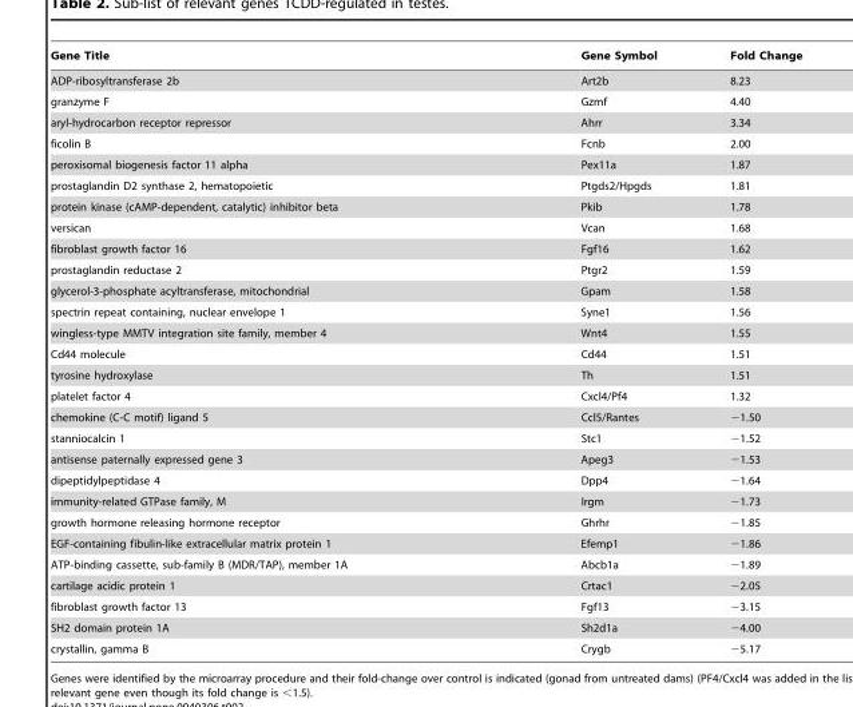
<table><thead><tr><td>Gene Title</td><td>Gene Symbol</td><td>Fold Change</td></tr></thead><tbody><tr><td>ADP-ribosyltransferase 2b</td><td>Art2b</td><td>8.23</td></tr><tr><td>granzyme F</td><td>Gzmf</td><td>4.40</td></tr><tr><td>aryl-hydrocarbon receptor repressor</td><td>Ahrr</td><td>3.34</td></tr><tr><td>ficolin B</td><td>Fcnb</td><td>2.00</td></tr><tr><td>peroxisomal biogenesis factor 11 alpha</td><td>Pex11a</td><td>1.87</td></tr><tr><td>prostaglandin D2 synthase 2, hematopoietic</td><td>Ptgds2/Hpgds</td><td>1.81</td></tr><tr><td>protein kinase (cAMP-dependent, catalytic) inhibitor beta</td><td>Pkib</td><td>1.78</td></tr><tr><td>versican</td><td>Vcan</td><td>1.68</td></tr><tr><td>fibroblast growth factor 16</td><td>Fgf16</td><td>1.62</td></tr><tr><td>prostaglandin reductase 2</td><td>Ptgr2</td><td>1.59</td></tr><tr><td>glycerol-3-phosphate acyltransferase, mitochondrial</td><td>Gpam</td><td>1.58</td></tr><tr><td>spectrin repeat containing, nuclear envelope 1</td><td>Syne1</td><td>1.56</td></tr><tr><td>wingless-type MMTV integration site family, member 4</td><td>Wnt4</td><td>1.55</td></tr><tr><td>Cd44 molecule</td><td>Cd44</td><td>1.51</td></tr><tr><td>tyrosine hydroxylase</td><td>Th</td><td>1.51</td></tr><tr><td>platelet factor 4</td><td>Cxcl4/Pf4</td><td>1.32</td></tr><tr><td>chemokine (C-C motif) ligand 5</td><td>Ccl5/Rantes</td><td>−1.50</td></tr><tr><td>stanniocalcin 1</td><td>Stc1</td><td>−1.52</td></tr><tr><td>antisense paternally expressed gene 3</td><td>Apeg3</td><td>−1.53</td></tr><tr><td>dipeptidylpeptidase 4</td><td>Dpp4</td><td>−1.64</td></tr><tr><td>immunity-related GTPase family, M</td><td>Irgm</td><td>−1.73</td></tr><tr><td>growth hormone releasing hormone receptor</td><td>Ghrhr</td><td>−1.85</td></tr><tr><td>EGF-containing fibulin-like extracellular matrix protein 1</td><td>Efemp1</td><td>−1.86</td></tr><tr><td>ATP-binding cassette, sub-family B (MDR/TAP), member 1A</td><td>Abcb1a</td><td>−1.89</td></tr><tr><td>cartilage acidic protein 1</td><td>Crtac1</td><td>−2.05</td></tr><tr><td>fibroblast growth factor 13</td><td>Fgf13</td><td>−3.15</td></tr><tr><td>SH2 domain protein 1A</td><td>Sh2d1a</td><td>−4.00</td></tr><tr><td>crystallin, gamma B</td><td>Crygb</td><td>−5.17</td></tr></tbody></table>